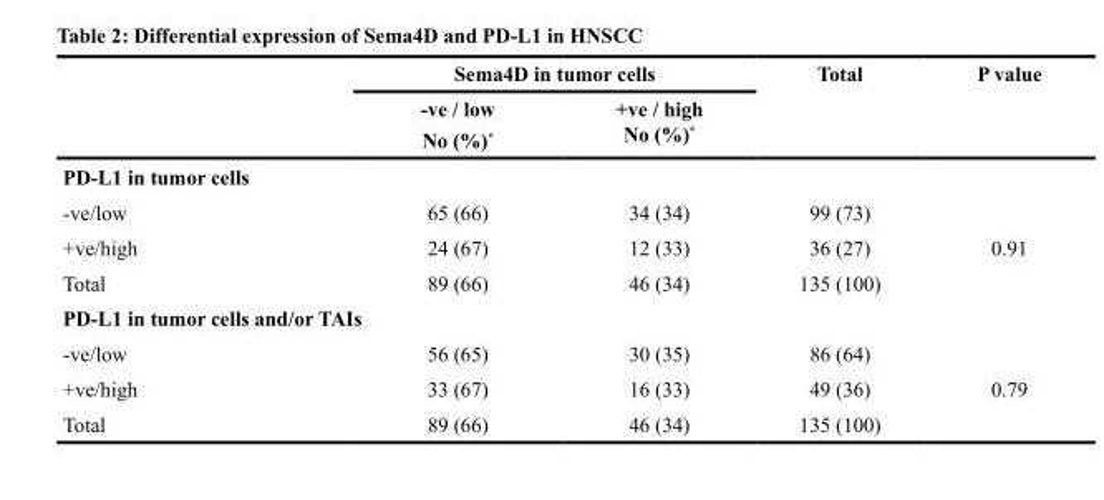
<table><thead><tr><td rowspan="2"></td><td colspan="2">Sema4D in tumor cells</td><td rowspan="2">Total</td><td rowspan="2">P value</td></tr><tr><td>-ve / low No (%)*</td><td>+ve / high No (%)*</td></tr></thead><tbody><tr><td colspan="5">PD-L1 in tumor cells</td></tr><tr><td>-ve/low</td><td>65 (66)</td><td>34 (34)</td><td>99 (73)</td><td rowspan="3">0.91</td></tr><tr><td>+ve/high</td><td>24 (67)</td><td>12 (33)</td><td>36 (27)</td></tr><tr><td>Total</td><td>89 (66)</td><td>46 (34)</td><td>135 (100)</td></tr><tr><td colspan="5">PD-L1 in tumor cells and/or TAIs</td></tr><tr><td>-ve/low</td><td>56 (65)</td><td>30 (35)</td><td>86 (64)</td><td rowspan="3">0.79</td></tr><tr><td>+ve/high</td><td>33 (67)</td><td>16 (33)</td><td>49 (36)</td></tr><tr><td>Total</td><td>89 (66)</td><td>46 (34)</td><td>135 (100)</td></tr></tbody></table>